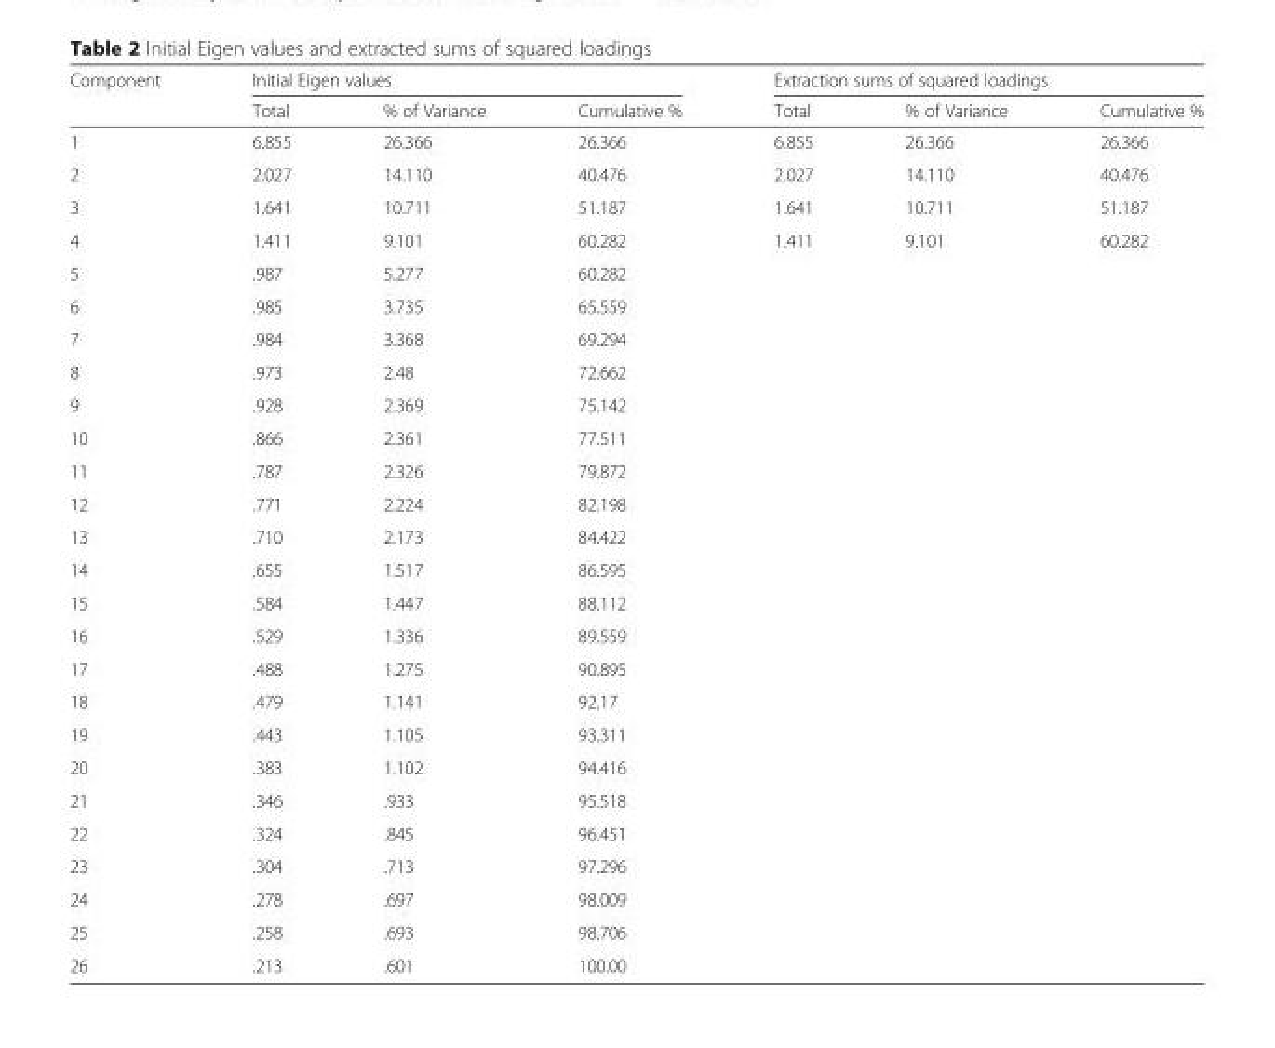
<table><thead><tr><td rowspan="2">Component</td><td colspan="3">Initial Eigen values</td><td colspan="3">Extraction sums of squared loadings</td></tr><tr><td>Total</td><td>% of Variance</td><td>Cumulative %</td><td>Total</td><td>% of Variance</td><td>Cumulative %</td></tr></thead><tbody><tr><td>1</td><td>6.855</td><td>26.366</td><td>26.366</td><td>6.855</td><td>26.366</td><td>26.366</td></tr><tr><td>2</td><td>2.027</td><td>14.110</td><td>40.476</td><td>2.027</td><td>14.110</td><td>40.476</td></tr><tr><td>3</td><td>1.641</td><td>10.711</td><td>51.187</td><td>1.641</td><td>10.711</td><td>51.187</td></tr><tr><td>4</td><td>1.411</td><td>9.101</td><td>60.282</td><td>1.411</td><td>9.101</td><td>60.282</td></tr><tr><td>5</td><td>.987</td><td>5.277</td><td>60.282</td><td></td><td></td><td></td></tr><tr><td>6</td><td>.985</td><td>3.735</td><td>65.559</td><td></td><td></td><td></td></tr><tr><td>7</td><td>.984</td><td>3.368</td><td>69.294</td><td></td><td></td><td></td></tr><tr><td>8</td><td>.973</td><td>2.48</td><td>72.662</td><td></td><td></td><td></td></tr><tr><td>9</td><td>.928</td><td>2.369</td><td>75.142</td><td></td><td></td><td></td></tr><tr><td>10</td><td>.866</td><td>2.361</td><td>77.511</td><td></td><td></td><td></td></tr><tr><td>11</td><td>.787</td><td>2.326</td><td>79.872</td><td></td><td></td><td></td></tr><tr><td>12</td><td>.771</td><td>2.224</td><td>82.198</td><td></td><td></td><td></td></tr><tr><td>13</td><td>.710</td><td>2.173</td><td>84.422</td><td></td><td></td><td></td></tr><tr><td>14</td><td>.655</td><td>1.517</td><td>86.595</td><td></td><td></td><td></td></tr><tr><td>15</td><td>.584</td><td>1.447</td><td>88.112</td><td></td><td></td><td></td></tr><tr><td>16</td><td>.529</td><td>1.336</td><td>89.559</td><td></td><td></td><td></td></tr><tr><td>17</td><td>.488</td><td>1.275</td><td>90.895</td><td></td><td></td><td></td></tr><tr><td>18</td><td>.479</td><td>1.141</td><td>92.17</td><td></td><td></td><td></td></tr><tr><td>19</td><td>.443</td><td>1.105</td><td>93.311</td><td></td><td></td><td></td></tr><tr><td>20</td><td>.383</td><td>1.102</td><td>94.416</td><td></td><td></td><td></td></tr><tr><td>21</td><td>.346</td><td>.933</td><td>95.518</td><td></td><td></td><td></td></tr><tr><td>22</td><td>.324</td><td>.845</td><td>96.451</td><td></td><td></td><td></td></tr><tr><td>23</td><td>.304</td><td>.713</td><td>97.296</td><td></td><td></td><td></td></tr><tr><td>24</td><td>.278</td><td>.697</td><td>98.009</td><td></td><td></td><td></td></tr><tr><td>25</td><td>.258</td><td>.693</td><td>98.706</td><td></td><td></td><td></td></tr><tr><td>26</td><td>.213</td><td>.601</td><td>100.00</td><td></td><td></td><td></td></tr></tbody></table>